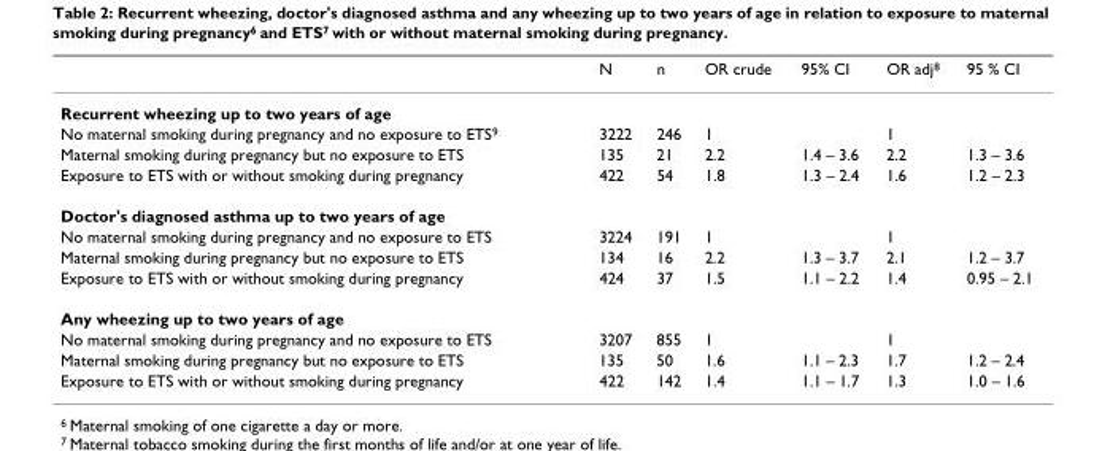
<table><thead><tr><td></td><td>N</td><td>n</td><td>OR crude</td><td>95% CI</td><td>OR adj<sup>8</sup></td><td>95 % CI</td></tr></thead><tbody><tr><td colspan="7">Recurrent wheezing up to two years of age</td></tr><tr><td>No maternal smoking during pregnancy and no exposure to ETS<sup>9</sup></td><td>3222</td><td>246</td><td>1</td><td></td><td>1</td><td></td></tr><tr><td>Maternal smoking during pregnancy but no exposure to ETS</td><td>135</td><td>21</td><td>2.2</td><td>1.4 – 3.6</td><td>2.2</td><td>1.3 – 3.6</td></tr><tr><td>Exposure to ETS with or without smoking during pregnancy</td><td>422</td><td>54</td><td>1.8</td><td>1.3 – 2.4</td><td>1.6</td><td>1.2 – 2.3</td></tr><tr><td colspan="7">Doctor&#x27;s diagnosed asthma up to two years of age</td></tr><tr><td>No maternal smoking during pregnancy and no exposure to ETS</td><td>3224</td><td>191</td><td>1</td><td></td><td>1</td><td></td></tr><tr><td>Maternal smoking during pregnancy but no exposure to ETS</td><td>134</td><td>16</td><td>2.2</td><td>1.3 – 3.7</td><td>2.1</td><td>1.2 – 3.7</td></tr><tr><td>Exposure to ETS with or without smoking during pregnancy</td><td>424</td><td>37</td><td>1.5</td><td>1.1 – 2.2</td><td>1.4</td><td>0.95 – 2.1</td></tr><tr><td colspan="7">Any wheezing up to two years of age</td></tr><tr><td>No maternal smoking during pregnancy and no exposure to ETS</td><td>3207</td><td>855</td><td>1</td><td></td><td>1</td><td></td></tr><tr><td>Maternal smoking during pregnancy but no exposure to ETS</td><td>135</td><td>50</td><td>1.6</td><td>1.1 – 2.3</td><td>1.7</td><td>1.2 – 2.4</td></tr><tr><td>Exposure to ETS with or without smoking during pregnancy</td><td>422</td><td>142</td><td>1.4</td><td>1.1 – 1.7</td><td>1.3</td><td>1.0 – 1.6</td></tr></tbody></table>